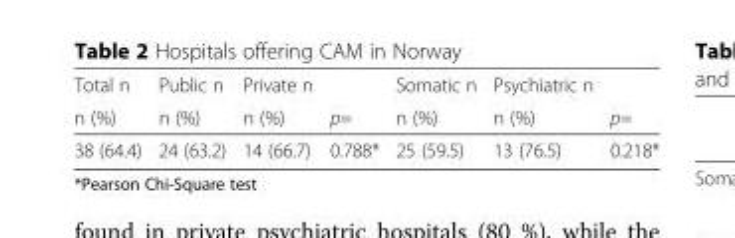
<table><thead><tr><td rowspan="2">Total n n (%)</td><td rowspan="2">Public n n (%)</td><td rowspan="2">Private n n (%)</td><td rowspan="2">p=</td><td rowspan="2">Somatic n n (%)</td><td rowspan="2">Psychiatric n n (%)</td><td rowspan="2">p=</td></tr><tr></tr></thead><tbody><tr><td>38 (64.4)</td><td>24 (63.2)</td><td>14 (66.7)</td><td>0.788*</td><td>25 (59.5)</td><td>13 (76.5)</td><td>0.218*</td></tr></tbody></table>